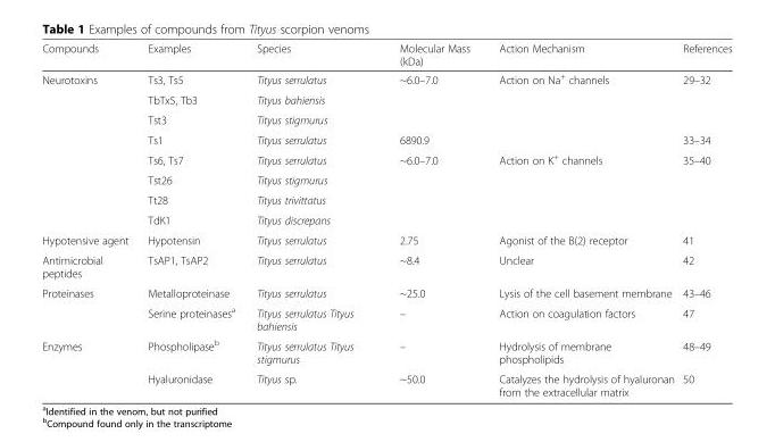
<table><thead><tr><td>Compounds</td><td>Examples</td><td>Species</td><td>Molecular Mass (kDa)</td><td>Action Mechanism</td><td>References</td></tr></thead><tbody><tr><td rowspan="8">Neurotoxins</td><td>Ts3, Ts5</td><td>Tityus serrulatus</td><td rowspan="3">~6.0–7.0</td><td rowspan="4">Action on Na<sup>+</sup> channels</td><td rowspan="3">29–32</td></tr><tr><td>TbTx5, Tb3</td><td>Tityus bahiensis</td></tr><tr><td>Tst3</td><td>Tityus stigmurus</td></tr><tr><td>Ts1</td><td>Tityus serrulatus</td><td>6890.9</td><td>33–34</td></tr><tr><td>Ts6, Ts7</td><td>Tityus serrulatus</td><td rowspan="4">~6.0–7.0</td><td rowspan="4">Action on K<sup>+</sup> channels</td><td rowspan="4">35–40</td></tr><tr><td>Tst26</td><td>Tityus stigmurus</td></tr><tr><td>Tt28</td><td>Tityus trivittatus</td></tr><tr><td>TdK1</td><td>Tityus discrepans</td></tr><tr><td>Hypotensive agent</td><td>Hypotensin</td><td>Tityus serrulatus</td><td>2.75</td><td>Agonist of the B(2) receptor</td><td>41</td></tr><tr><td>Antimicrobial peptides</td><td>TsAP1, TsAP2</td><td>Tityus serrulatus</td><td>~8.4</td><td>Unclear</td><td>42</td></tr><tr><td rowspan="2">Proteinases</td><td>Metalloproteinase</td><td>Tityus serrulatus</td><td>~25.0</td><td>Lysis of the cell basement membrane</td><td>43–46</td></tr><tr><td>Serine proteinases<sup>a</sup></td><td>Tityus serrulatus Tityus bahiensis</td><td>–</td><td>Action on coagulation factors</td><td>47</td></tr><tr><td rowspan="2">Enzymes</td><td>Phospholipase<sup>b</sup></td><td>Tityus serrulatus Tityus stigmurus</td><td>–</td><td>Hydrolysis of membrane phospholipids</td><td>48–49</td></tr><tr><td>Hyaluronidase</td><td>Tityus sp.</td><td>~50.0</td><td>Catalyzes the hydrolysis of hyaluronan from the extracellular matrix</td><td>50</td></tr></tbody></table>